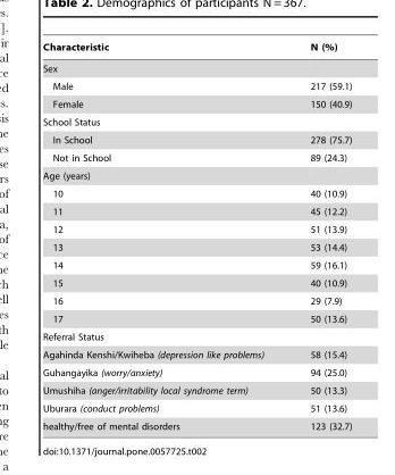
<table><thead><tr><td>Characteristic</td><td>N (%)</td></tr></thead><tbody><tr><td colspan="2">Sex</td></tr><tr><td>Male</td><td>217 (59.1)</td></tr><tr><td>Female</td><td>150 (40.9)</td></tr><tr><td colspan="2">School Status</td></tr><tr><td>In School</td><td>278 (75.7)</td></tr><tr><td>Not in School</td><td>89 (24.3)</td></tr><tr><td colspan="2">Age (years)</td></tr><tr><td>10</td><td>40 (10.9)</td></tr><tr><td>11</td><td>45 (12.2)</td></tr><tr><td>12</td><td>51 (13.9)</td></tr><tr><td>13</td><td>53 (14.4)</td></tr><tr><td>14</td><td>59 (16.1)</td></tr><tr><td>15</td><td>40 (10.9)</td></tr><tr><td>16</td><td>29 (7.9)</td></tr><tr><td>17</td><td>50 (13.6)</td></tr><tr><td colspan="2">Referral Status</td></tr><tr><td>Agahinda Kenshi/Kwiheba (depression like problems)</td><td>58 (15.4)</td></tr><tr><td>Guhangayika (worry/anxiety)</td><td>94 (25.0)</td></tr><tr><td>Umushiha (anger/irritability local syndrome term)</td><td>50 (13.3)</td></tr><tr><td>Uburara (conduct problems)</td><td>51 (13.6)</td></tr><tr><td>healthy/free of mental disorders</td><td>123 (32.7)</td></tr></tbody></table>